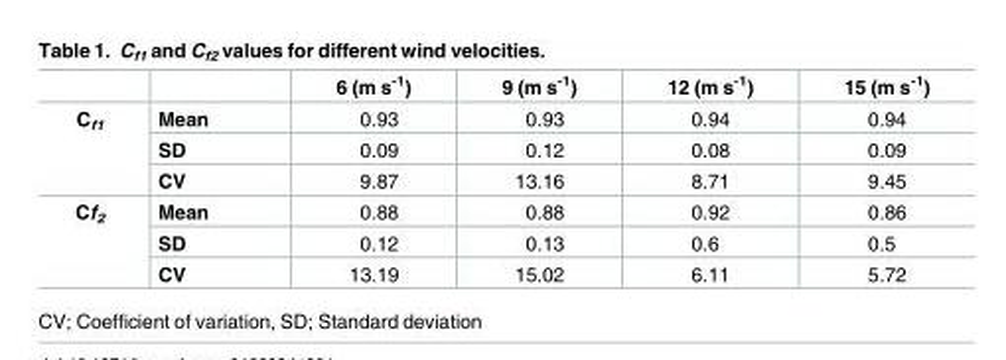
<table><thead><tr><td></td><td></td><td>6 (m s<sup>-1</sup>)</td><td>9 (m s<sup>-1</sup>)</td><td>12 (m s<sup>-1</sup>)</td><td>15 (m s<sup>-1</sup>)</td></tr></thead><tbody><tr><td rowspan="3">C<sub>f1</sub></td><td>Mean</td><td>0.93</td><td>0.93</td><td>0.94</td><td>0.94</td></tr><tr><td>SD</td><td>0.09</td><td>0.12</td><td>0.08</td><td>0.09</td></tr><tr><td>CV</td><td>9.87</td><td>13.16</td><td>8.71</td><td>9.45</td></tr><tr><td rowspan="3">Cf<sub>2</sub></td><td>Mean</td><td>0.88</td><td>0.88</td><td>0.92</td><td>0.86</td></tr><tr><td>SD</td><td>0.12</td><td>0.13</td><td>0.6</td><td>0.5</td></tr><tr><td>CV</td><td>13.19</td><td>15.02</td><td>6.11</td><td>5.72</td></tr></tbody></table>